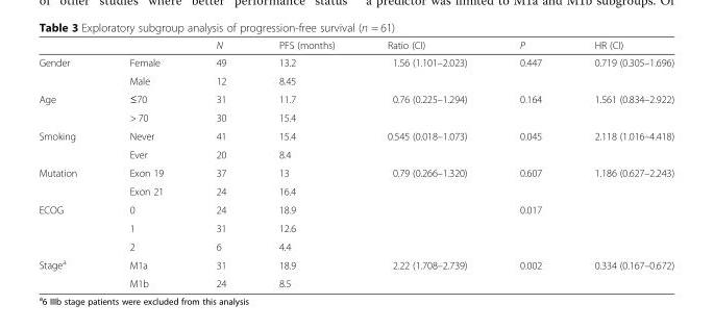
<table><thead><tr><td></td><td></td><td>N</td><td>PFS (months)</td><td>Ratio (CI)</td><td>P</td><td>HR (CI)</td></tr></thead><tbody><tr><td rowspan="2">Gender</td><td>Female</td><td>49</td><td>13.2</td><td rowspan="2">1.56 (1.101–2.023)</td><td rowspan="2">0.447</td><td rowspan="2">0.719 (0.305–1.696)</td></tr><tr><td>Male</td><td>12</td><td>8.45</td></tr><tr><td rowspan="2">Age</td><td>≤70</td><td>31</td><td>11.7</td><td rowspan="2">0.76 (0.225–1.294)</td><td rowspan="2">0.164</td><td rowspan="2">1.561 (0.834–2.922)</td></tr><tr><td>&gt; 70</td><td>30</td><td>15.4</td></tr><tr><td rowspan="2">Smoking</td><td>Never</td><td>41</td><td>15.4</td><td rowspan="2">0.545 (0.018–1.073)</td><td rowspan="2">0.045</td><td rowspan="2">2.118 (1.016–4.418)</td></tr><tr><td>Ever</td><td>20</td><td>8.4</td></tr><tr><td rowspan="2">Mutation</td><td>Exon 19</td><td>37</td><td>13</td><td rowspan="2">0.79 (0.266–1.320)</td><td rowspan="2">0.607</td><td rowspan="2">1.186 (0.627–2.243)</td></tr><tr><td>Exon 21</td><td>24</td><td>16.4</td></tr><tr><td rowspan="3">ECOG</td><td>0</td><td>24</td><td>18.9</td><td rowspan="3"></td><td rowspan="3">0.017</td><td rowspan="3"></td></tr><tr><td>1</td><td>31</td><td>12.6</td></tr><tr><td>2</td><td>6</td><td>4.4</td></tr><tr><td rowspan="2">Stage<sup>a</sup></td><td>M1a</td><td>31</td><td>18.9</td><td rowspan="2">2.22 (1.708–2.739)</td><td rowspan="2">0.002</td><td rowspan="2">0.334 (0.167–0.672)</td></tr><tr><td>M1b</td><td>24</td><td>8.5</td></tr></tbody></table>